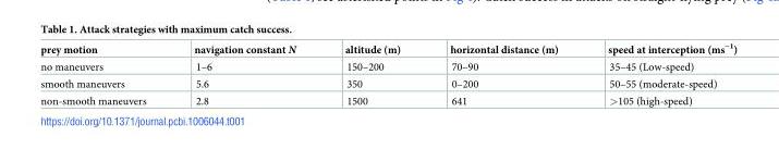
<table><thead><tr><td>prey motion</td><td>navigation constant N</td><td>altitude (m)</td><td>horizontal distance (m)</td><td>speed at interception (ms<sup>−1</sup>)</td></tr></thead><tbody><tr><td>no maneuvers</td><td>1–6</td><td>150–200</td><td>70–90</td><td>35–45 (Low-speed)</td></tr><tr><td>smooth maneuvers</td><td>5.6</td><td>350</td><td>0–200</td><td>50–55 (moderate-speed)</td></tr><tr><td>non-smooth maneuvers</td><td>2.8</td><td>1500</td><td>641</td><td>&gt;105 (high-speed)</td></tr></tbody></table>